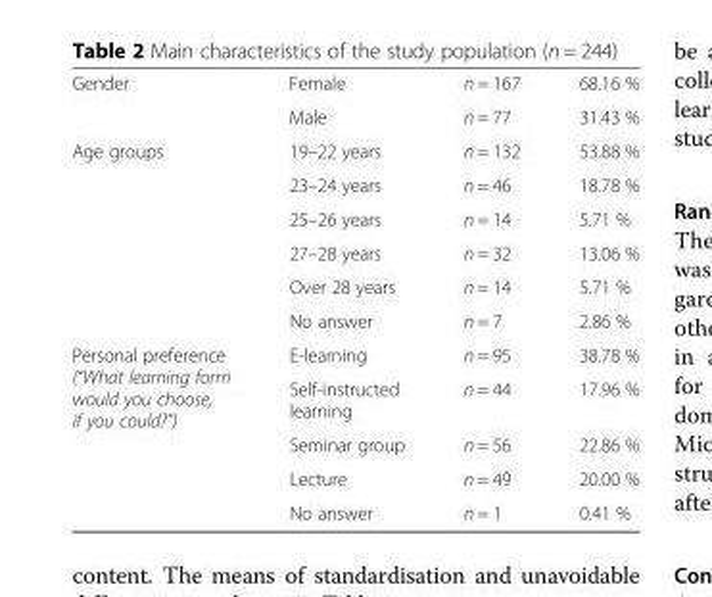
<table><tbody><tr><td rowspan="2">Gender</td><td>Female</td><td>n = 167</td><td>68.16 %</td></tr><tr><td>Male</td><td>n = 77</td><td>31.43 %</td></tr><tr><td rowspan="6">Age groups</td><td>19–22 years</td><td>n = 132</td><td>53.88 %</td></tr><tr><td>23–24 years</td><td>n = 46</td><td>18.78 %</td></tr><tr><td>25–26 years</td><td>n = 14</td><td>5.71 %</td></tr><tr><td>27–28 years</td><td>n = 32</td><td>13.06 %</td></tr><tr><td>Over 28 years</td><td>n = 14</td><td>5.71 %</td></tr><tr><td>No answer</td><td>n = 7</td><td>2.86 %</td></tr><tr><td rowspan="5">Personal preference (“What learning form would you choose, if you could?”)</td><td>E-learning</td><td>n = 95</td><td>38.78 %</td></tr><tr><td>Self-instructed learning</td><td>n = 44</td><td>17.96 %</td></tr><tr><td>Seminar group</td><td>n = 56</td><td>22.86 %</td></tr><tr><td>Lecture</td><td>n = 49</td><td>20.00 %</td></tr><tr><td>No answer</td><td>n = 1</td><td>0.41 %</td></tr></tbody></table>